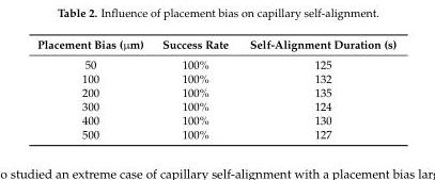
<table><thead><tr><td>Placement Bias (µm)</td><td>Success Rate</td><td>Self-Alignment Duration (s)</td></tr></thead><tbody><tr><td>50</td><td>100%</td><td>125</td></tr><tr><td>100</td><td>100%</td><td>132</td></tr><tr><td>200</td><td>100%</td><td>135</td></tr><tr><td>300</td><td>100%</td><td>124</td></tr><tr><td>400</td><td>100%</td><td>130</td></tr><tr><td>500</td><td>100%</td><td>127</td></tr></tbody></table>